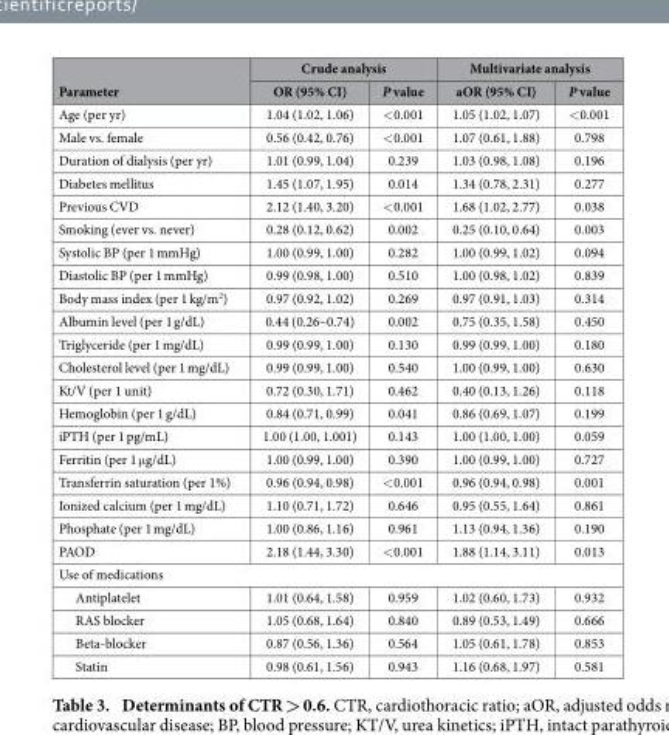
<table><thead><tr><td rowspan="2">Parameter</td><td colspan="2">Crude analysis</td><td colspan="2">Multivariate analysis</td></tr><tr><td>OR (95% CI)</td><td>P value</td><td>aOR (95% CI)</td><td>P value</td></tr></thead><tbody><tr><td>Age (per yr)</td><td>1.04 (1.02, 1.06)</td><td>&lt; 0.001</td><td>1.05 (1.02, 1.07)</td><td>&lt; 0.001</td></tr><tr><td>Male vs. female</td><td>0.56 (0.42, 0.76)</td><td>&lt; 0.001</td><td>1.07 (0.61, 1.88)</td><td>0.798</td></tr><tr><td>Duration of dialysis (per yr)</td><td>1.01 (0.99, 1.04)</td><td>0.239</td><td>1.03 (0.98, 1.08)</td><td>0.196</td></tr><tr><td>Diabetes mellitus</td><td>1.45 (1.07, 1.95)</td><td>0.014</td><td>1.34 (0.78, 2.31)</td><td>0.277</td></tr><tr><td>Previous CVD</td><td>2.12 (1.40, 3.20)</td><td>&lt; 0.001</td><td>1.68 (1.02, 2.77)</td><td>0.038</td></tr><tr><td>Smoking (ever vs. never)</td><td>0.28 (0.12, 0.62)</td><td>0.002</td><td>0.25 (0.10, 0.64)</td><td>0.003</td></tr><tr><td>Systolic BP (per 1 mmHg)</td><td>1.00 (0.99, 1.00)</td><td>0.282</td><td>1.00 (0.99, 1.02)</td><td>0.094</td></tr><tr><td>Diastolic BP (per 1 mmHg)</td><td>0.99 (0.98, 1.00)</td><td>0.510</td><td>1.00 (0.98, 1.02)</td><td>0.839</td></tr><tr><td>Body mass index (per 1 kg/m<sup>2</sup>)</td><td>0.97 (0.92, 1.02)</td><td>0.269</td><td>0.97 (0.91, 1.03)</td><td>0.314</td></tr><tr><td>Albumin level (per 1 g/dL)</td><td>0.44 (0.26–0.74)</td><td>0.002</td><td>0.75 (0.35, 1.58)</td><td>0.450</td></tr><tr><td>Triglyceride (per 1 mg/dL)</td><td>0.99 (0.99, 1.00)</td><td>0.130</td><td>0.99 (0.99, 1.00)</td><td>0.180</td></tr><tr><td>Cholesterol level (per 1 mg/dL)</td><td>0.99 (0.99, 1.00)</td><td>0.540</td><td>1.00 (0.99, 1.00)</td><td>0.630</td></tr><tr><td>Kt/V (per 1 unit)</td><td>0.72 (0.30, 1.71)</td><td>0.462</td><td>0.40 (0.13, 1.26)</td><td>0.118</td></tr><tr><td>Hemoglobin (per 1 g/dL)</td><td>0.84 (0.71, 0.99)</td><td>0.041</td><td>0.86 (0.69, 1.07)</td><td>0.199</td></tr><tr><td>iPTH (per 1 pg/mL)</td><td>1.00 (1.00, 1.001)</td><td>0.143</td><td>1.00 (1.00, 1.00)</td><td>0.059</td></tr><tr><td>Ferritin (per 1 μ g/dL)</td><td>1.00 (0.99, 1.00)</td><td>0.390</td><td>1.00 (0.99, 1.00)</td><td>0.727</td></tr><tr><td>Transferrin saturation (per 1%)</td><td>0.96 (0.94, 0.98)</td><td>&lt; 0.001</td><td>0.96 (0.94, 0.98)</td><td>0.001</td></tr><tr><td>Ionized calcium (per 1 mg/dL)</td><td>1.10 (0.71, 1.72)</td><td>0.646</td><td>0.95 (0.55, 1.64)</td><td>0.861</td></tr><tr><td>Phosphate (per 1 mg/dL)</td><td>1.00 (0.86, 1.16)</td><td>0.961</td><td>1.13 (0.94, 1.36)</td><td>0.190</td></tr><tr><td>PAOD</td><td>2.18 (1.44, 3.30)</td><td>&lt; 0.001</td><td>1.88 (1.14, 3.11)</td><td>0.013</td></tr><tr><td colspan="5">Use of medications</td></tr><tr><td>Antiplatelet</td><td>1.01 (0.64, 1.58)</td><td>0.959</td><td>1.02 (0.60, 1.73)</td><td>0.932</td></tr><tr><td>RAS blocker</td><td>1.05 (0.68, 1.64)</td><td>0.840</td><td>0.89 (0.53, 1.49)</td><td>0.666</td></tr><tr><td>Beta-blocker</td><td>0.87 (0.56, 1.36)</td><td>0.564</td><td>1.05 (0.61, 1.78)</td><td>0.853</td></tr><tr><td>Statin</td><td>0.98 (0.61, 1.56)</td><td>0.943</td><td>1.16 (0.68, 1.97)</td><td>0.581</td></tr></tbody></table>